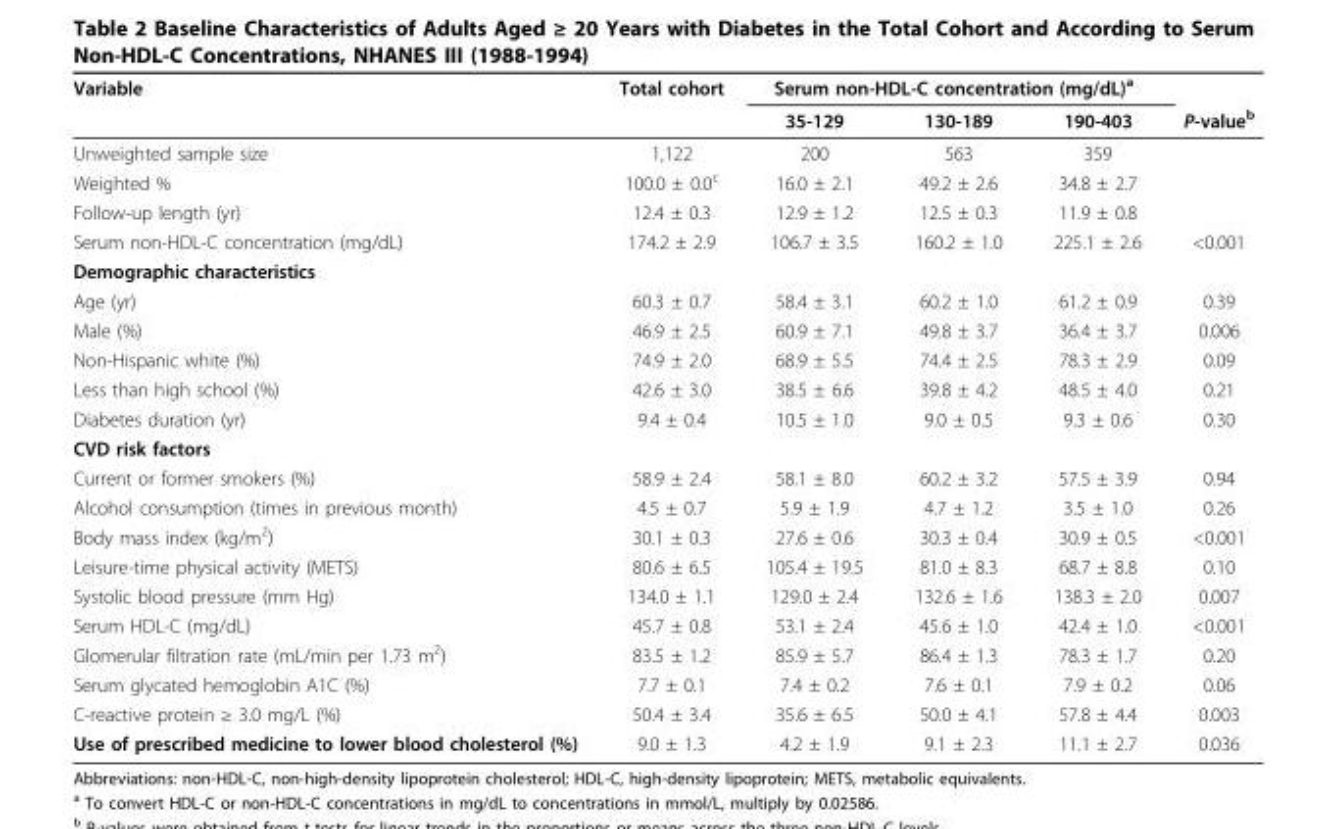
<table><thead><tr><td rowspan="2">Variable</td><td rowspan="2">Total cohort</td><td colspan="3">Serum non-HDL-C concentration (mg/dL)<sup>a</sup></td><td rowspan="2">P-value<sup>b</sup></td></tr><tr><td>35-129</td><td>130-189</td><td>190-403</td></tr></thead><tbody><tr><td>Unweighted sample size</td><td>1,122</td><td>200</td><td>563</td><td>359</td><td></td></tr><tr><td>Weighted %</td><td>100.0 ± 0.0<sup>c</sup></td><td>16.0 ± 2.1</td><td>49.2 ± 2.6</td><td>34.8 ± 2.7</td><td></td></tr><tr><td>Follow-up length (yr)</td><td>12.4 ± 0.3</td><td>12.9 ± 1.2</td><td>12.5 ± 0.3</td><td>11.9 ± 0.8</td><td></td></tr><tr><td>Serum non-HDL-C concentration (mg/dL)</td><td>174.2 ± 2.9</td><td>106.7 ± 3.5</td><td>160.2 ± 1.0</td><td>225.1 ± 2.6</td><td>&lt;0.001</td></tr><tr><td colspan="6">Demographic characteristics</td></tr><tr><td>Age (yr)</td><td>60.3 ± 0.7</td><td>58.4 ± 3.1</td><td>60.2 ± 1.0</td><td>61.2 ± 0.9</td><td>0.39</td></tr><tr><td>Male (%)</td><td>46.9 ± 2.5</td><td>60.9 ± 7.1</td><td>49.8 ± 3.7</td><td>36.4 ± 3.7</td><td>0.006</td></tr><tr><td>Non-Hispanic white (%)</td><td>74.9 ± 2.0</td><td>68.9 ± 5.5</td><td>74.4 ± 2.5</td><td>78.3 ± 2.9</td><td>0.09</td></tr><tr><td>Less than high school (%)</td><td>42.6 ± 3.0</td><td>38.5 ± 6.6</td><td>39.8 ± 4.2</td><td>48.5 ± 4.0</td><td>0.21</td></tr><tr><td>Diabetes duration (yr)</td><td>9.4 ± 0.4</td><td>10.5 ± 1.0</td><td>9.0 ± 0.5</td><td>9.3 ± 0.6</td><td>0.30</td></tr><tr><td colspan="6">CVD risk factors</td></tr><tr><td>Current or former smokers (%)</td><td>58.9 ± 2.4</td><td>58.1 ± 8.0</td><td>60.2 ± 3.2</td><td>57.5 ± 3.9</td><td>0.94</td></tr><tr><td>Alcohol consumption (times in previous month)</td><td>4.5 ± 0.7</td><td>5.9 ± 1.9</td><td>4.7 ± 1.2</td><td>3.5 ± 1.0</td><td>0.26</td></tr><tr><td>Body mass index (kg/m<sup>2</sup>)</td><td>30.1 ± 0.3</td><td>27.6 ± 0.6</td><td>30.3 ± 0.4</td><td>30.9 ± 0.5</td><td>&lt;0.001</td></tr><tr><td>Leisure-time physical activity (METS)</td><td>80.6 ± 6.5</td><td>105.4 ± 19.5</td><td>81.0 ± 8.3</td><td>68.7 ± 8.8</td><td>0.10</td></tr><tr><td>Systolic blood pressure (mm Hg)</td><td>134.0 ± 1.1</td><td>129.0 ± 2.4</td><td>132.6 ± 1.6</td><td>138.3 ± 2.0</td><td>0.007</td></tr><tr><td>Serum HDL-C (mg/dL)</td><td>45.7 ± 0.8</td><td>53.1 ± 2.4</td><td>45.6 ± 1.0</td><td>42.4 ± 1.0</td><td>&lt;0.001</td></tr><tr><td>Glomerular filtration rate (mL/min per 1.73 m<sup>2</sup>)</td><td>83.5 ± 1.2</td><td>85.9 ± 5.7</td><td>86.4 ± 1.3</td><td>78.3 ± 1.7</td><td>0.20</td></tr><tr><td>Serum glycated hemoglobin A1C (%)</td><td>7.7 ± 0.1</td><td>7.4 ± 0.2</td><td>7.6 ± 0.1</td><td>7.9 ± 0.2</td><td>0.06</td></tr><tr><td>C-reactive protein ≥ 3.0 mg/L (%)</td><td>50.4 ± 3.4</td><td>35.6 ± 6.5</td><td>50.0 ± 4.1</td><td>57.8 ± 4.4</td><td>0.003</td></tr><tr><td>Use of prescribed medicine to lower blood cholesterol (%)</td><td>9.0 ± 1.3</td><td>4.2 ± 1.9</td><td>9.1 ± 2.3</td><td>11.1 ± 2.7</td><td>0.036</td></tr></tbody></table>